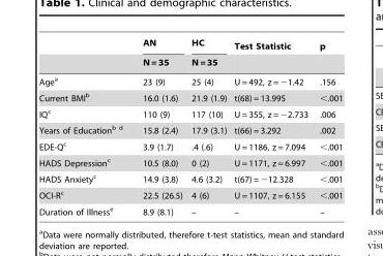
<table><thead><tr><td rowspan="2"></td><td rowspan="2">AN N = 35</td><td rowspan="2">HC N = 35</td><td rowspan="2">Test Statistic</td><td rowspan="2">p</td></tr><tr></tr></thead><tbody><tr><td>Age<sup>a</sup></td><td>23 (9)</td><td>25 (4)</td><td>U = 492, z = −1.42</td><td>.156</td></tr><tr><td>Current BMI<sup>b</sup></td><td>16.0 (1.6)</td><td>21.9 (1.9)</td><td>t(68) = 13.995</td><td>&lt;.001</td></tr><tr><td>IQ<sup>c</sup></td><td>110 (9)</td><td>117 (10)</td><td>U = 355, z = −2.733</td><td>.006</td></tr><tr><td>Years of Educationb d</td><td>15.8 (2.4)</td><td>17.9 (3.1)</td><td>t(66) = 3.292</td><td>.002</td></tr><tr><td>EDE-Q<sup>c</sup></td><td>3.9 (1.7)</td><td>.4 (.6)</td><td>U = 1186, z = 7.094</td><td>&lt;.001</td></tr><tr><td>HADS Depression<sup>c</sup></td><td>10.5 (8.0)</td><td>0 (2)</td><td>U = 1171, z = 6.997</td><td>&lt;.001</td></tr><tr><td>HADS Anxiety<sup>c</sup></td><td>14.9 (3.8)</td><td>4.6 (3.2)</td><td>t(67) = −12.328</td><td>&lt;.001</td></tr><tr><td>OCI-R<sup>c</sup></td><td>22.5 (26.5)</td><td>4 (6)</td><td>U = 1107, z = 6.155</td><td>&lt;.001</td></tr><tr><td>Duration of Illness<sup>e</sup></td><td>8.9 (8.1)</td><td>–</td><td>–</td><td>–</td></tr></tbody></table>